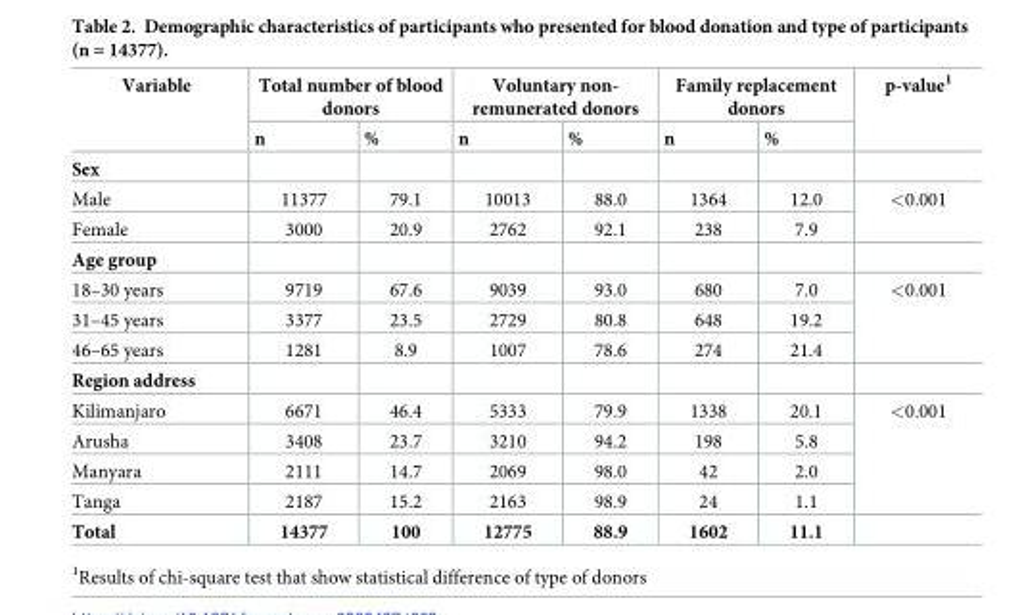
<table><thead><tr><td rowspan="2">Variable</td><td colspan="2">Total number of blood donors</td><td colspan="2">Voluntary non- remunerated donors</td><td colspan="2">Family replacement donors</td><td rowspan="2">p-value<sup>1</sup></td></tr><tr><td>n</td><td>%</td><td>n</td><td>%</td><td>n</td><td>%</td></tr></thead><tbody><tr><td colspan="8">Sex</td></tr><tr><td>Male</td><td>11377</td><td>79.1</td><td>10013</td><td>88.0</td><td>1364</td><td>12.0</td><td rowspan="2">&lt;0.001</td></tr><tr><td>Female</td><td>3000</td><td>20.9</td><td>2762</td><td>92.1</td><td>238</td><td>7.9</td></tr><tr><td colspan="8">Age group</td></tr><tr><td>18–30 years</td><td>9719</td><td>67.6</td><td>9039</td><td>93.0</td><td>680</td><td>7.0</td><td rowspan="3">&lt;0.001</td></tr><tr><td>31–45 years</td><td>3377</td><td>23.5</td><td>2729</td><td>80.8</td><td>648</td><td>19.2</td></tr><tr><td>46–65 years</td><td>1281</td><td>8.9</td><td>1007</td><td>78.6</td><td>274</td><td>21.4</td></tr><tr><td colspan="8">Region address</td></tr><tr><td>Kilimanjaro</td><td>6671</td><td>46.4</td><td>5333</td><td>79.9</td><td>1338</td><td>20.1</td><td rowspan="4">&lt;0.001</td></tr><tr><td>Arusha</td><td>3408</td><td>23.7</td><td>3210</td><td>94.2</td><td>198</td><td>5.8</td></tr><tr><td>Manyara</td><td>2111</td><td>14.7</td><td>2069</td><td>98.0</td><td>42</td><td>2.0</td></tr><tr><td>Tanga</td><td>2187</td><td>15.2</td><td>2163</td><td>98.9</td><td>24</td><td>1.1</td></tr><tr><td>Total</td><td>14377</td><td>100</td><td>12775</td><td>88.9</td><td>1602</td><td>11.1</td><td></td></tr></tbody></table>